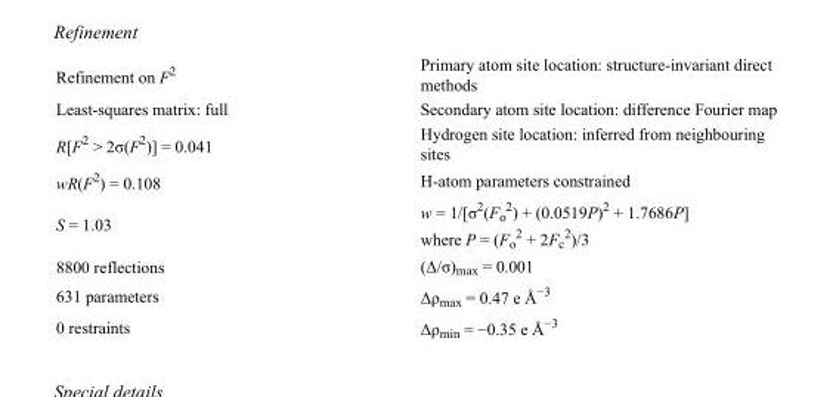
<table><tbody><tr><td>Refinement on F<sup>2</sup></td><td>Primary atom site location: structure-invariant direct methods</td></tr><tr><td>Least-squares matrix: full</td><td>Secondary atom site location: difference Fourier map</td></tr><tr><td>R[F<sup>2</sup> &gt; 2σ(F<sup>2</sup>)] = 0.041</td><td>Hydrogen site location: inferred from neighbouring sites</td></tr><tr><td>wR(F<sup>2</sup>) = 0.108</td><td>H-atom parameters constrained</td></tr><tr><td>S = 1.03</td><td>w = 1/[σ<sup>2</sup>(F<sub>o</sub> <sup>2</sup>) + (0.0519P)<sup>2</sup> + 1.7686P] where P = (F<sub>o</sub> <sup>2</sup> + 2F<sub>c</sub> <sup>2</sup>)/3</td></tr><tr><td>8800 reflections</td><td>(Δ/σ)<sub>max</sub> = 0.001</td></tr><tr><td>631 parameters</td><td>Δρ<sub>max</sub> = 0.47 e Å<sup>−3</sup></td></tr><tr><td>0 restraints</td><td>Δρ<sub>min</sub> = −0.35 e Å<sup>−3</sup></td></tr></tbody></table>